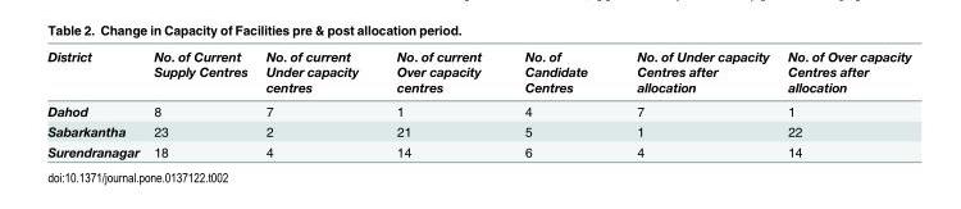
<table><thead><tr><td>District</td><td>No. of Current Supply Centres</td><td>No. of current Under capacity centres</td><td>No. of current Over capacity centres</td><td>No. of Candidate Centres</td><td>No. of Under capacity Centres after allocation</td><td>No. of Over capacity Centres after allocation</td></tr></thead><tbody><tr><td>Dahod</td><td>8</td><td>7</td><td>1</td><td>4</td><td>7</td><td>1</td></tr><tr><td>Sabarkantha</td><td>23</td><td>2</td><td>21</td><td>5</td><td>1</td><td>22</td></tr><tr><td>Surendranagar</td><td>18</td><td>4</td><td>14</td><td>6</td><td>4</td><td>14</td></tr></tbody></table>